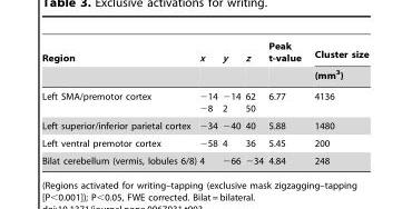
<table><thead><tr><td rowspan="2">Region</td><td rowspan="2">x</td><td rowspan="2">y</td><td rowspan="2">z</td><td rowspan="2">Peak t-value</td><td rowspan="2">Cluster size (mm<sup>3</sup>)</td></tr><tr></tr></thead><tbody><tr><td>Left SMA/premotor cortex</td><td>−14 −8</td><td>−14 2</td><td>62 50</td><td>6.77</td><td>4136</td></tr><tr><td>Left superior/inferior parietal cortex</td><td>−34</td><td>−40</td><td>40</td><td>5.88</td><td>1480</td></tr><tr><td>Left ventral premotor cortex</td><td>−58</td><td>4</td><td>36</td><td>5.45</td><td>200</td></tr><tr><td>Bilat cerebellum (vermis, lobules 6/8)</td><td>4</td><td>−66</td><td>−34</td><td>4.84</td><td>248</td></tr></tbody></table>